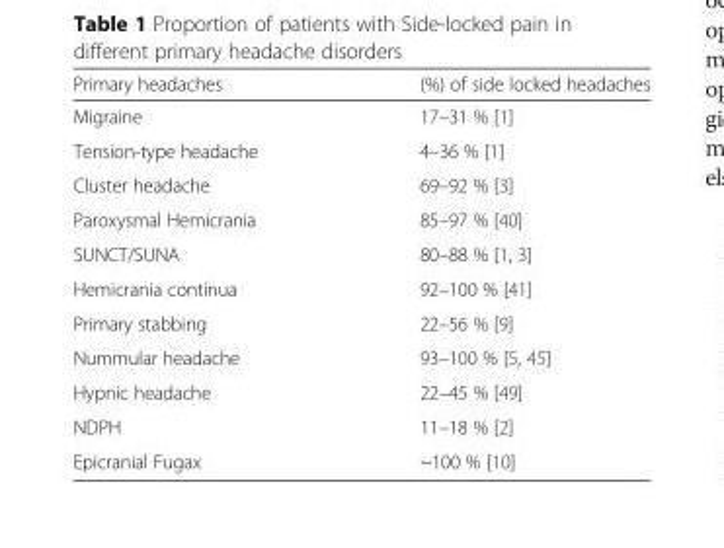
<table><thead><tr><td>Primary headaches</td><td>(%) of side locked headaches</td></tr></thead><tbody><tr><td>Migraine</td><td>17–31 % [1]</td></tr><tr><td>Tension-type headache</td><td>4–36 % [1]</td></tr><tr><td>Cluster headache</td><td>69–92 % [3]</td></tr><tr><td>Paroxysmal Hemicrania</td><td>85–97 % [40]</td></tr><tr><td>SUNCT/SUNA</td><td>80–88 % [1, 3]</td></tr><tr><td>Hemicrania continua</td><td>92–100 % [41]</td></tr><tr><td>Primary stabbing</td><td>22–56 % [9]</td></tr><tr><td>Nummular headache</td><td>93–100 % [5, 45]</td></tr><tr><td>Hypnic headache</td><td>22–45 % [49]</td></tr><tr><td>NDPH</td><td>11–18 % [2]</td></tr><tr><td>Epicranial Fugax</td><td>~100 % [10]</td></tr></tbody></table>